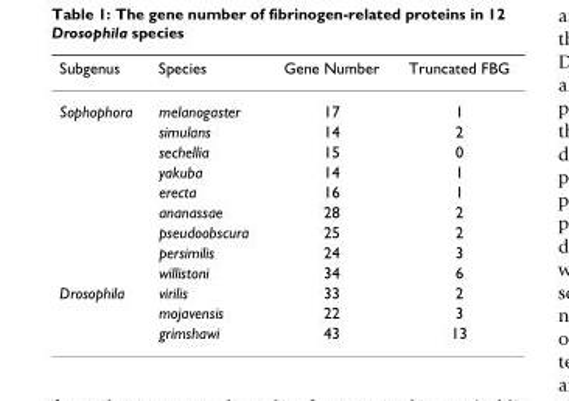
<table><thead><tr><td>Subgenus</td><td>Species</td><td>Gene Number</td><td>Truncated FBG</td></tr></thead><tbody><tr><td rowspan="9">Sophophora</td><td>melanogaster</td><td>17</td><td>1</td></tr><tr><td>simulans</td><td>14</td><td>2</td></tr><tr><td>sechellia</td><td>15</td><td>0</td></tr><tr><td>yakuba</td><td>14</td><td>1</td></tr><tr><td>erecta</td><td>16</td><td>1</td></tr><tr><td>ananassae</td><td>28</td><td>2</td></tr><tr><td>pseudoobscura</td><td>25</td><td>2</td></tr><tr><td>persimilis</td><td>24</td><td>3</td></tr><tr><td>willistoni</td><td>34</td><td>6</td></tr><tr><td rowspan="3">Drosophila</td><td>virilis</td><td>33</td><td>2</td></tr><tr><td>mojavensis</td><td>22</td><td>3</td></tr><tr><td>grimshawi</td><td>43</td><td>13</td></tr></tbody></table>